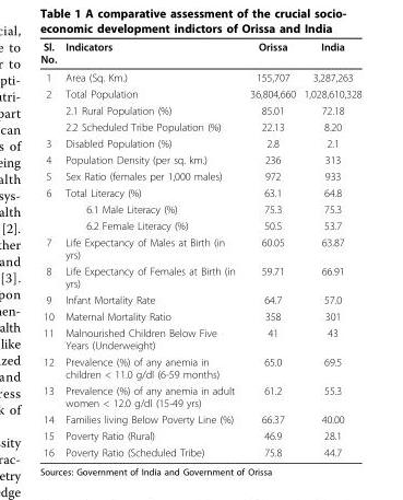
<table><thead><tr><td>Sl. No.</td><td>Indicators</td><td>Orissa</td><td>India</td></tr></thead><tbody><tr><td>1</td><td>Area (Sq. Km.)</td><td>155,707</td><td>3,287,263</td></tr><tr><td rowspan="3">2</td><td>Total Population</td><td>36,804,660</td><td>1,028,610,328</td></tr><tr><td>2.1 Rural Population (%)</td><td>85.01</td><td>72.18</td></tr><tr><td>2.2 Scheduled Tribe Population (%)</td><td>22.13</td><td>8.20</td></tr><tr><td>3</td><td>Disabled Population (%)</td><td>2.8</td><td>2.1</td></tr><tr><td>4</td><td>Population Density (per sq. km.)</td><td>236</td><td>313</td></tr><tr><td>5</td><td>Sex Ratio (females per 1,000 males)</td><td>972</td><td>933</td></tr><tr><td rowspan="3">6</td><td>Total Literacy (%)</td><td>63.1</td><td>64.8</td></tr><tr><td>6.1 Male Literacy (%)</td><td>75.3</td><td>75.3</td></tr><tr><td>6.2 Female Literacy (%)</td><td>50.5</td><td>53.7</td></tr><tr><td>7</td><td>Life Expectancy of Males at Birth (in yrs)</td><td>60.05</td><td>63.87</td></tr><tr><td>8</td><td>Life Expectancy of Females at Birth (in yrs)</td><td>59.71</td><td>66.91</td></tr><tr><td>9</td><td>Infant Mortality Rate</td><td>64.7</td><td>57.0</td></tr><tr><td>10</td><td>Maternal Mortality Ratio</td><td>358</td><td>301</td></tr><tr><td>11</td><td>Malnourished Children Below Five Years (Underweight)</td><td>41</td><td>43</td></tr><tr><td>12</td><td>Prevalence (%) of any anemia in children &lt; 11.0 g/dl (6-59 months)</td><td>65.0</td><td>69.5</td></tr><tr><td>13</td><td>Prevalence (%) of any anemia in adult women &lt; 12.0 g/dl (15-49 yrs)</td><td>61.2</td><td>55.3</td></tr><tr><td>14</td><td>Families living Below Poverty Line (%)</td><td>66.37</td><td>40.00</td></tr><tr><td>15</td><td>Poverty Ratio (Rural)</td><td>46.9</td><td>28.1</td></tr><tr><td>16</td><td>Poverty Ratio (Scheduled Tribe)</td><td>75.8</td><td>44.7</td></tr></tbody></table>